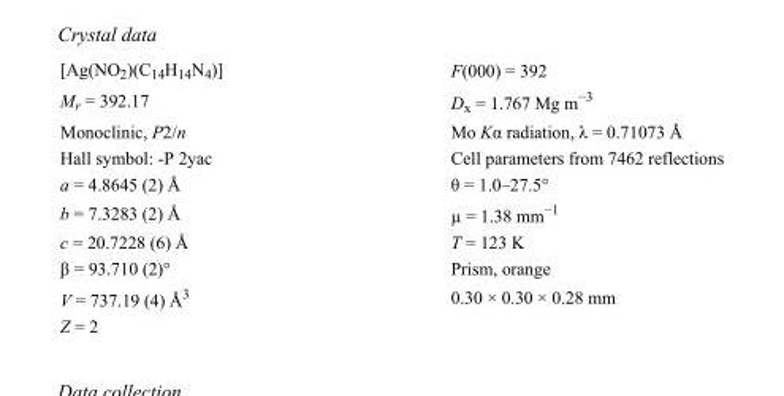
<table><tbody><tr><td>[Ag(NO<sub>2</sub>)(C<sub>14</sub>H<sub>14</sub>N<sub>4</sub>)]</td><td>F(000) = 392</td></tr><tr><td>M<sub>r</sub> = 392.17</td><td>D<sub>x</sub> = 1.767 Mg m<sup>−3</sup></td></tr><tr><td>Monoclinic, P2/n</td><td>Mo Kα radiation, λ = 0.71073 Å</td></tr><tr><td>Hall symbol: -P 2yac</td><td>Cell parameters from 7462 reflections</td></tr><tr><td>a = 4.8645 (2) Å</td><td>θ = 1.0–27.5°</td></tr><tr><td>b = 7.3283 (2) Å</td><td>µ = 1.38 mm<sup>−1</sup></td></tr><tr><td>c = 20.7228 (6) Å</td><td>T = 123 K</td></tr><tr><td>β = 93.710 (2)°</td><td>Prism, orange</td></tr><tr><td>V = 737.19 (4) Å<sup>3</sup></td><td>0.30 × 0.30 × 0.28 mm</td></tr><tr><td>Z = 2</td><td></td></tr></tbody></table>